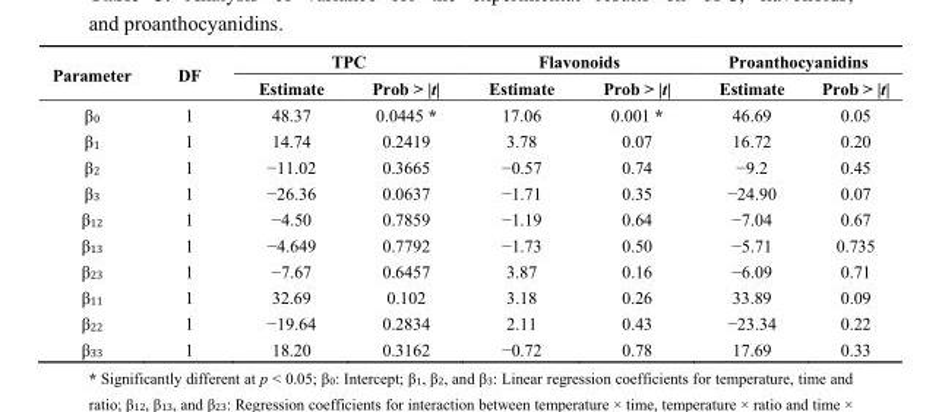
<table><thead><tr><td rowspan="2">Parameter</td><td rowspan="2">DF</td><td colspan="2">TPC</td><td colspan="2">Flavonoids</td><td colspan="2">Proanthocyanidins</td></tr><tr><td>Estimate</td><td>Prob &gt; |t|</td><td>Estimate</td><td>Prob &gt; |t|</td><td>Estimate</td><td>Prob &gt; |t|</td></tr></thead><tbody><tr><td>β<sub>0</sub></td><td>1</td><td>48.37</td><td>0.0445 *</td><td>17.06</td><td>0.001 *</td><td>46.69</td><td>0.05</td></tr><tr><td>β<sub>1</sub></td><td>1</td><td>14.74</td><td>0.2419</td><td>3.78</td><td>0.07</td><td>16.72</td><td>0.20</td></tr><tr><td>β<sub>2</sub></td><td>1</td><td>−11.02</td><td>0.3665</td><td>−0.57</td><td>0.74</td><td>−9.2</td><td>0.45</td></tr><tr><td>β<sub>3</sub></td><td>1</td><td>−26.36</td><td>0.0637</td><td>−1.71</td><td>0.35</td><td>−24.90</td><td>0.07</td></tr><tr><td>β<sub>12</sub></td><td>1</td><td>−4.50</td><td>0.7859</td><td>−1.19</td><td>0.64</td><td>−7.04</td><td>0.67</td></tr><tr><td>β<sub>13</sub></td><td>1</td><td>−4.649</td><td>0.7792</td><td>−1.73</td><td>0.50</td><td>−5.71</td><td>0.735</td></tr><tr><td>β<sub>23</sub></td><td>1</td><td>−7.67</td><td>0.6457</td><td>3.87</td><td>0.16</td><td>−6.09</td><td>0.71</td></tr><tr><td>β<sub>11</sub></td><td>1</td><td>32.69</td><td>0.102</td><td>3.18</td><td>0.26</td><td>33.89</td><td>0.09</td></tr><tr><td>β<sub>22</sub></td><td>1</td><td>−19.64</td><td>0.2834</td><td>2.11</td><td>0.43</td><td>−23.34</td><td>0.22</td></tr><tr><td>β<sub>33</sub></td><td>1</td><td>18.20</td><td>0.3162</td><td>−0.72</td><td>0.78</td><td>17.69</td><td>0.33</td></tr></tbody></table>